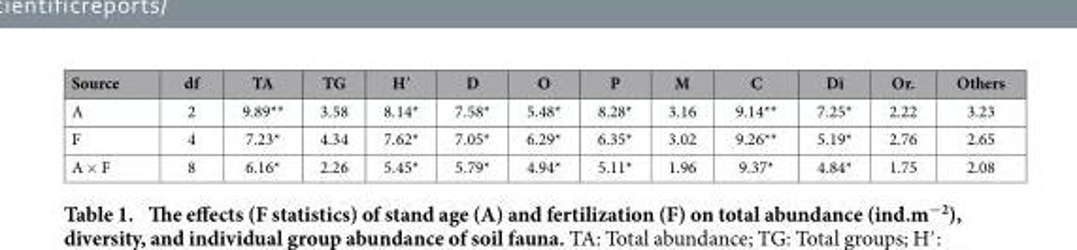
<table><thead><tr><td>Source</td><td>df</td><td>TA</td><td>TG</td><td>H′</td><td>D</td><td>O</td><td>P</td><td>M</td><td>C</td><td>Di</td><td>Or.</td><td>Others</td></tr></thead><tbody><tr><td>A</td><td>2</td><td>9.89**</td><td>3.58</td><td>8.14*</td><td>7.58*</td><td>5.48*</td><td>8.28*</td><td>3.16</td><td>9.14**</td><td>7.25*</td><td>2.22</td><td>3.23</td></tr><tr><td>F</td><td>4</td><td>7.23*</td><td>4.34</td><td>7.62*</td><td>7.05*</td><td>6.29*</td><td>6.35*</td><td>3.02</td><td>9.26**</td><td>5.19*</td><td>2.76</td><td>2.65</td></tr><tr><td>A × F</td><td>8</td><td>6.16*</td><td>2.26</td><td>5.45*</td><td>5.79*</td><td>4.94*</td><td>5.11*</td><td>1.96</td><td>9.37*</td><td>4.84*</td><td>1.75</td><td>2.08</td></tr></tbody></table>